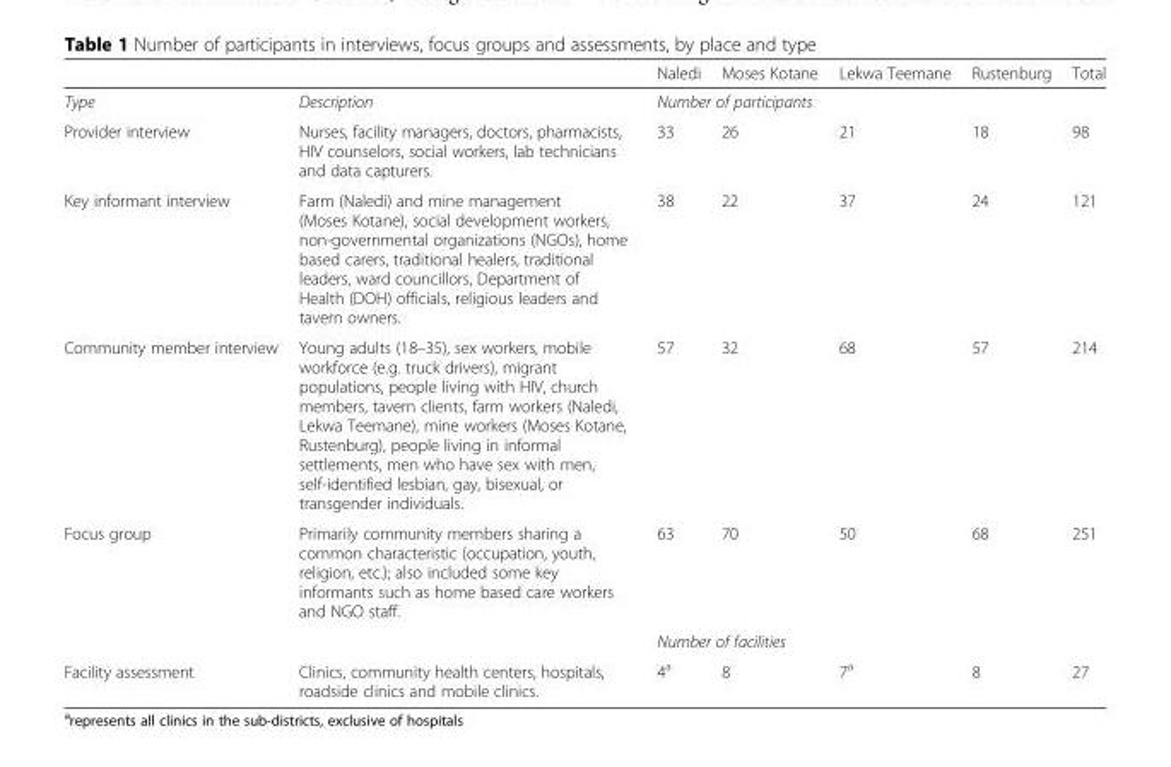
<table><thead><tr><td></td><td></td><td>Naledi</td><td>Moses Kotane</td><td>Lekwa Teemane</td><td>Rustenburg</td><td>Total</td></tr></thead><tbody><tr><td>Type</td><td>Description</td><td colspan="5">Number of participants</td></tr><tr><td>Provider interview</td><td>Nurses, facility managers, doctors, pharmacists, HIV counselors, social workers, lab technicians and data capturers.</td><td>33</td><td>26</td><td>21</td><td>18</td><td>98</td></tr><tr><td>Key informant interview</td><td>Farm (Naledi) and mine management (Moses Kotane), social development workers, non-governmental organizations (NGOs), home based carers, traditional healers, traditional leaders, ward councillors, Department of Health (DOH) officials, religious leaders and tavern owners.</td><td>38</td><td>22</td><td>37</td><td>24</td><td>121</td></tr><tr><td>Community member interview</td><td>Young adults (18–35), sex workers, mobile workforce (e.g. truck drivers), migrant populations, people living with HIV, church members, tavern clients, farm workers (Naledi, Lekwa Teemane), mine workers (Moses Kotane, Rustenburg), people living in informal settlements, men who have sex with men, self-identified lesbian, gay, bisexual, or transgender individuals.</td><td>57</td><td>32</td><td>68</td><td>57</td><td>214</td></tr><tr><td rowspan="2">Focus group</td><td>Primarily community members sharing a common characteristic (occupation, youth, religion, etc.); also included some key informants such as home based care workers and NGO staff.</td><td>63</td><td>70</td><td>50</td><td>68</td><td>251</td></tr><tr><td></td><td colspan="5">Number of facilities</td></tr><tr><td>Facility assessment</td><td>Clinics, community health centers, hospitals, roadside clinics and mobile clinics.</td><td>4<sup>a</sup></td><td>8</td><td>7<sup>a</sup></td><td>8</td><td>27</td></tr></tbody></table>